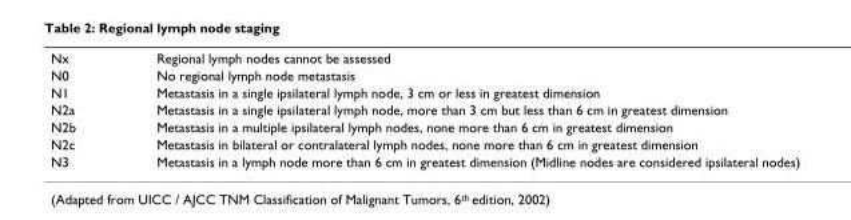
<table><tbody><tr><td>Nx</td><td>Regional lymph nodes cannot be assessed</td></tr><tr><td>N0</td><td>No regional lymph node metastasis</td></tr><tr><td>N1</td><td>Metastasis in a single ipsilateral lymph node, 3 cm or less in greatest dimension</td></tr><tr><td>N2a</td><td>Metastasis in a single ipsilateral lymph node, more than 3 cm but less than 6 cm in greatest dimension</td></tr><tr><td>N2b</td><td>Metastasis in a multiple ipsilateral lymph nodes, none more than 6 cm in greatest dimension</td></tr><tr><td>N2c</td><td>Metastasis in bilateral or contralateral lymph nodes, none more than 6 cm in greatest dimension</td></tr><tr><td>N3</td><td>Metastasis in a lymph node more than 6 cm in greatest dimension (Midline nodes are considered ipsilateral nodes)</td></tr></tbody></table>